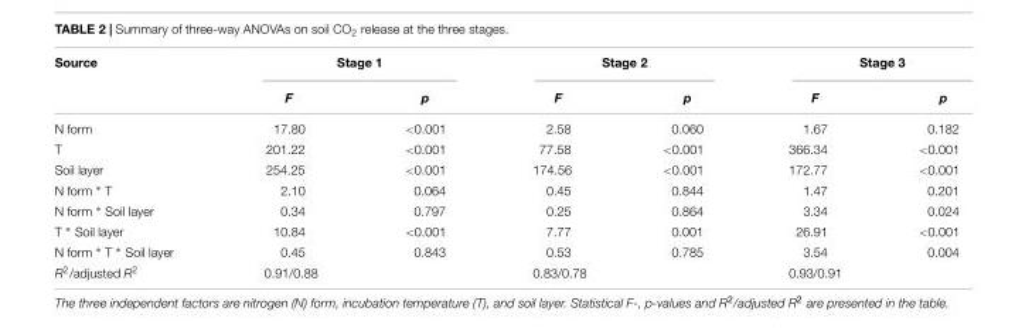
<table><thead><tr><td rowspan="2">Source</td><td colspan="2">Stage 1</td><td colspan="2">Stage 2</td><td colspan="2">Stage 3</td></tr><tr><td>F</td><td>p</td><td>F</td><td>p</td><td>F</td><td>p</td></tr></thead><tbody><tr><td>N form</td><td>17.80</td><td>&lt;0.001</td><td>2.58</td><td>0.060</td><td>1.67</td><td>0.182</td></tr><tr><td>T</td><td>201.22</td><td>&lt;0.001</td><td>77.58</td><td>&lt;0.001</td><td>366.34</td><td>&lt;0.001</td></tr><tr><td>Soil layer</td><td>254.25</td><td>&lt;0.001</td><td>174.56</td><td>&lt;0.001</td><td>172.77</td><td>&lt;0.001</td></tr><tr><td>N form ∗ T</td><td>2.10</td><td>0.064</td><td>0.45</td><td>0.844</td><td>1.47</td><td>0.201</td></tr><tr><td>N form ∗ Soil layer</td><td>0.34</td><td>0.797</td><td>0.25</td><td>0.864</td><td>3.34</td><td>0.024</td></tr><tr><td>T ∗ Soil layer</td><td>10.84</td><td>&lt;0.001</td><td>7.77</td><td>0.001</td><td>26.91</td><td>&lt;0.001</td></tr><tr><td>N form ∗ T ∗ Soil layer</td><td>0.45</td><td>0.843</td><td>0.53</td><td>0.785</td><td>3.54</td><td>0.004</td></tr><tr><td>R<sup>2</sup>/adjusted R<sup>2</sup></td><td colspan="2">0.91/0.88</td><td colspan="2">0.83/0.78</td><td colspan="2">0.93/0.91</td></tr></tbody></table>